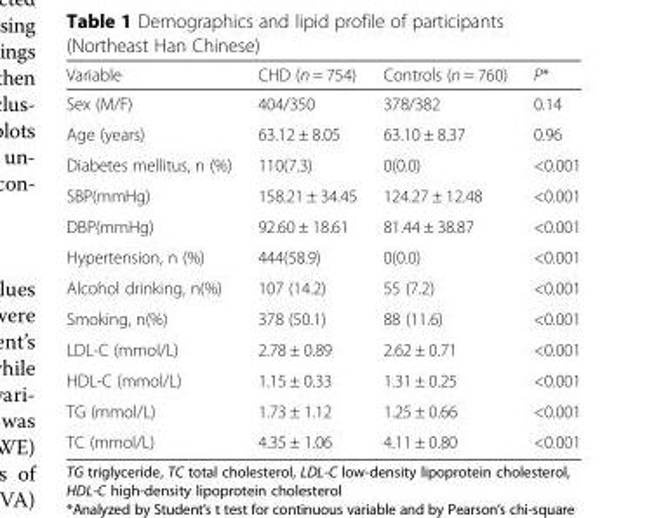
<table><thead><tr><td>Variable</td><td>CHD (n = 754)</td><td>Controls (n = 760)</td><td>P*</td></tr></thead><tbody><tr><td>Sex (M/F)</td><td>404/350</td><td>378/382</td><td>0.14</td></tr><tr><td>Age (years)</td><td>63.12 ± 8.05</td><td>63.10 ± 8.37</td><td>0.96</td></tr><tr><td>Diabetes mellitus, n (%)</td><td>110(7.3)</td><td>0(0.0)</td><td>&lt;0.001</td></tr><tr><td>SBP(mmHg)</td><td>158.21 ± 34.45</td><td>124.27 ± 12.48</td><td>&lt;0.001</td></tr><tr><td>DBP(mmHg)</td><td>92.60 ± 18.61</td><td>81.44 ± 38.87</td><td>&lt;0.001</td></tr><tr><td>Hypertension, n (%)</td><td>444(58.9)</td><td>0(0.0)</td><td>&lt;0.001</td></tr><tr><td>Alcohol drinking, n(%)</td><td>107 (14.2)</td><td>55 (7.2)</td><td>&lt;0.001</td></tr><tr><td>Smoking, n(%)</td><td>378 (50.1)</td><td>88 (11.6)</td><td>&lt;0.001</td></tr><tr><td>LDL-C (mmol/L)</td><td>2.78 ± 0.89</td><td>2.62 ± 0.71</td><td>&lt;0.001</td></tr><tr><td>HDL-C (mmol/L)</td><td>1.15 ± 0.33</td><td>1.31 ± 0.25</td><td>&lt;0.001</td></tr><tr><td>TG (mmol/L)</td><td>1.73 ± 1.12</td><td>1.25 ± 0.66</td><td>&lt;0.001</td></tr><tr><td>TC (mmol/L)</td><td>4.35 ± 1.06</td><td>4.11 ± 0.80</td><td>&lt;0.001</td></tr></tbody></table>